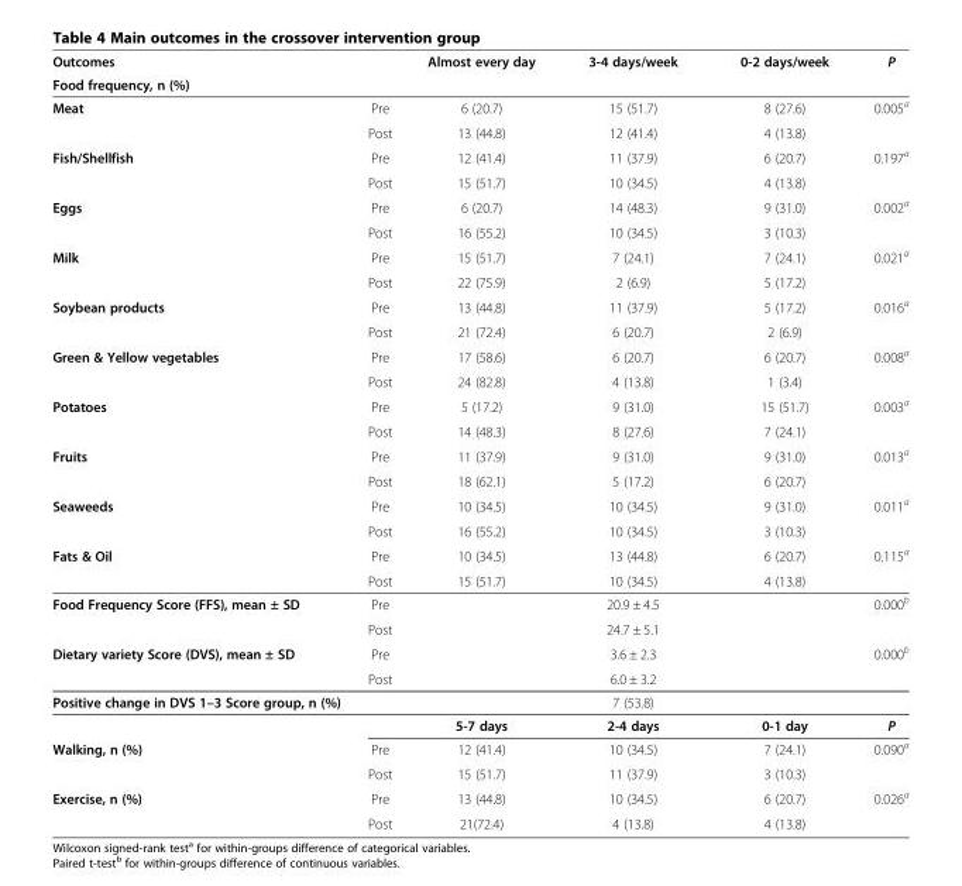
<table><thead><tr><td rowspan="2">Outcomes Food frequency, n (%)</td><td rowspan="2"></td><td rowspan="2">Almost every day</td><td rowspan="2">3-4 days/week</td><td rowspan="2">0-2 days/week</td><td rowspan="2">P</td></tr><tr></tr></thead><tbody><tr><td rowspan="2">Meat</td><td>Pre</td><td>6 (20.7)</td><td>15 (51.7)</td><td>8 (27.6)</td><td rowspan="2">0.005<sup>a</sup></td></tr><tr><td>Post</td><td>13 (44.8)</td><td>12 (41.4)</td><td>4 (13.8)</td></tr><tr><td rowspan="2">Fish/Shellfish</td><td>Pre</td><td>12 (41.4)</td><td>11 (37.9)</td><td>6 (20.7)</td><td rowspan="2">0.197<sup>a</sup></td></tr><tr><td>Post</td><td>15 (51.7)</td><td>10 (34.5)</td><td>4 (13.8)</td></tr><tr><td rowspan="2">Eggs</td><td>Pre</td><td>6 (20.7)</td><td>14 (48.3)</td><td>9 (31.0)</td><td rowspan="2">0.002<sup>a</sup></td></tr><tr><td>Post</td><td>16 (55.2)</td><td>10 (34.5)</td><td>3 (10.3)</td></tr><tr><td rowspan="2">Milk</td><td>Pre</td><td>15 (51.7)</td><td>7 (24.1)</td><td>7 (24.1)</td><td rowspan="2">0.021<sup>a</sup></td></tr><tr><td>Post</td><td>22 (75.9)</td><td>2 (6.9)</td><td>5 (17.2)</td></tr><tr><td rowspan="2">Soybean products</td><td>Pre</td><td>13 (44.8)</td><td>11 (37.9)</td><td>5 (17.2)</td><td rowspan="2">0.016<sup>a</sup></td></tr><tr><td>Post</td><td>21 (72.4)</td><td>6 (20.7)</td><td>2 (6.9)</td></tr><tr><td rowspan="2">Green &amp; Yellow vegetables</td><td>Pre</td><td>17 (58.6)</td><td>6 (20.7)</td><td>6 (20.7)</td><td rowspan="2">0.008<sup>a</sup></td></tr><tr><td>Post</td><td>24 (82.8)</td><td>4 (13.8)</td><td>1 (3.4)</td></tr><tr><td rowspan="2">Potatoes</td><td>Pre</td><td>5 (17.2)</td><td>9 (31.0)</td><td>15 (51.7)</td><td rowspan="2">0.003<sup>a</sup></td></tr><tr><td>Post</td><td>14 (48.3)</td><td>8 (27.6)</td><td>7 (24.1)</td></tr><tr><td rowspan="2">Fruits</td><td>Pre</td><td>11 (37.9)</td><td>9 (31.0)</td><td>9 (31.0)</td><td rowspan="2">0.013<sup>a</sup></td></tr><tr><td>Post</td><td>18 (62.1)</td><td>5 (17.2)</td><td>6 (20.7)</td></tr><tr><td rowspan="2">Seaweeds</td><td>Pre</td><td>10 (34.5)</td><td>10 (34.5)</td><td>9 (31.0)</td><td rowspan="2">0.011<sup>a</sup></td></tr><tr><td>Post</td><td>16 (55.2)</td><td>10 (34.5)</td><td>3 (10.3)</td></tr><tr><td rowspan="2">Fats &amp; Oil</td><td>Pre</td><td>10 (34.5)</td><td>13 (44.8)</td><td>6 (20.7)</td><td>0.115<sup>a</sup></td></tr><tr><td>Post</td><td>15 (51.7)</td><td>10 (34.5)</td><td>4 (13.8)</td><td></td></tr><tr><td rowspan="2">Food Frequency Score (FFS), mean ± SD</td><td>Pre</td><td></td><td>20.9 ± 4.5</td><td></td><td rowspan="2">0.000<sup>b</sup></td></tr><tr><td>Post</td><td></td><td>24.7 ± 5.1</td><td></td></tr><tr><td rowspan="2">Dietary variety Score (DVS), mean ± SD</td><td>Pre</td><td></td><td>3.6 ± 2.3</td><td></td><td>0.000<sup>b</sup></td></tr><tr><td>Post</td><td></td><td>6.0 ± 3.2</td><td></td><td></td></tr><tr><td rowspan="2">Positive change in DVS 1–3 Score group, n (%)</td><td></td><td></td><td>7 (53.8)</td><td></td><td></td></tr><tr><td></td><td>5-7 days</td><td>2-4 days</td><td>0-1 day</td><td>P</td></tr><tr><td rowspan="2">Walking, n (%)</td><td>Pre</td><td>12 (41.4)</td><td>10 (34.5)</td><td>7 (24.1)</td><td rowspan="2">0.090<sup>a</sup></td></tr><tr><td>Post</td><td>15 (51.7)</td><td>11 (37.9)</td><td>3 (10.3)</td></tr><tr><td rowspan="2">Exercise, n (%)</td><td>Pre</td><td>13 (44.8)</td><td>10 (34.5)</td><td>6 (20.7)</td><td>0.026<sup>a</sup></td></tr><tr><td>Post</td><td>21(72.4)</td><td>4 (13.8)</td><td>4 (13.8)</td><td></td></tr></tbody></table>